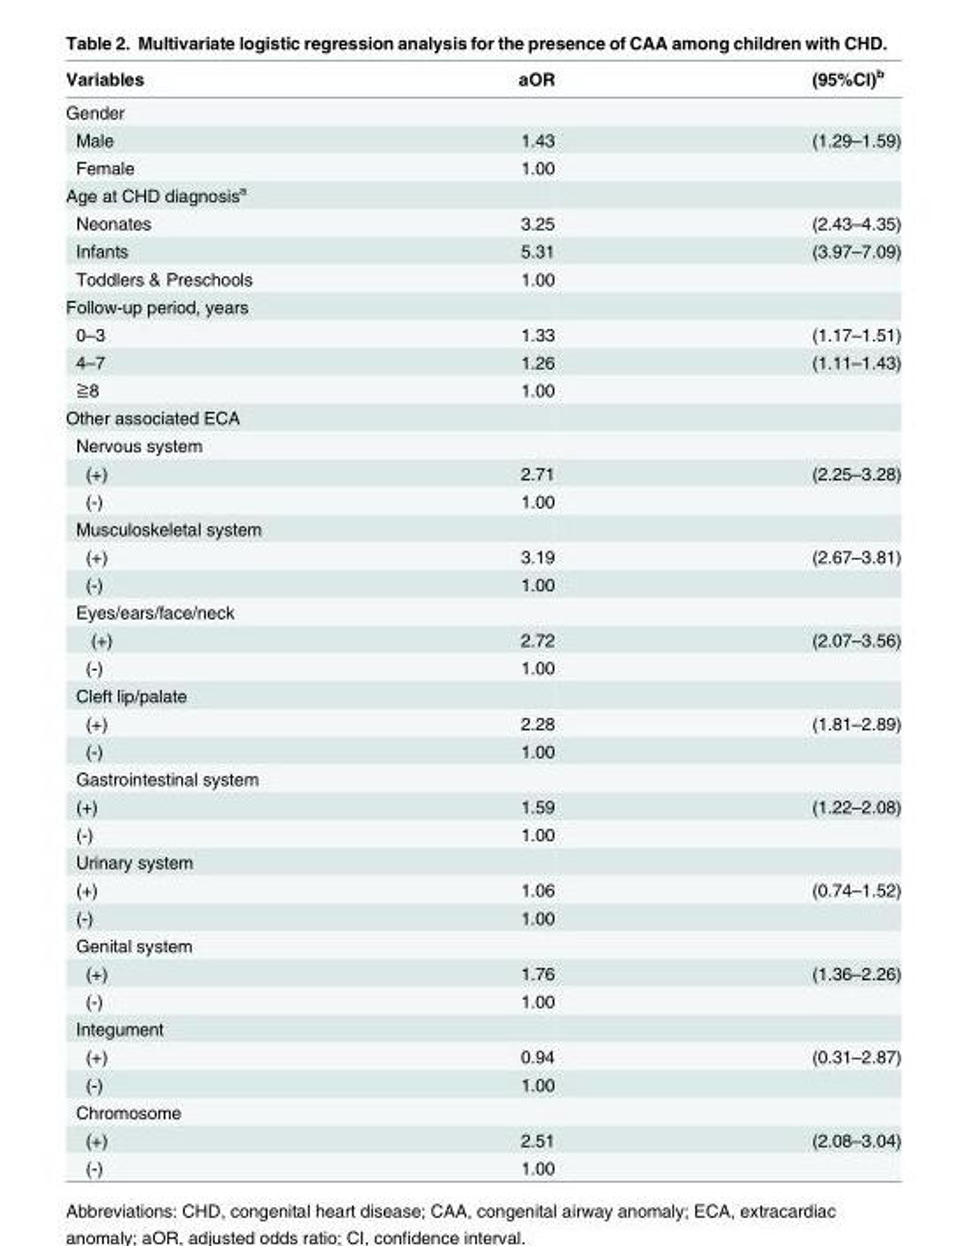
<table><thead><tr><td>Variables</td><td>aOR</td><td>(95%CI)<sup>b</sup></td></tr></thead><tbody><tr><td colspan="3">Gender</td></tr><tr><td>Male</td><td>1.43</td><td>(1.29–1.59)</td></tr><tr><td>Female</td><td>1.00</td><td></td></tr><tr><td colspan="3">Age at CHD diagnosis<sup>a</sup></td></tr><tr><td>Neonates</td><td>3.25</td><td>(2.43–4.35)</td></tr><tr><td>Infants</td><td>5.31</td><td>(3.97–7.09)</td></tr><tr><td>Toddlers &amp; Preschools</td><td>1.00</td><td></td></tr><tr><td colspan="3">Follow-up period, years</td></tr><tr><td>0–3</td><td>1.33</td><td>(1.17–1.51)</td></tr><tr><td>4–7</td><td>1.26</td><td>(1.11–1.43)</td></tr><tr><td>≧8</td><td>1.00</td><td></td></tr><tr><td colspan="3">Other associated ECA</td></tr><tr><td colspan="3">Nervous system</td></tr><tr><td>(+)</td><td>2.71</td><td>(2.25–3.28)</td></tr><tr><td>(-)</td><td>1.00</td><td></td></tr><tr><td colspan="3">Musculoskeletal system</td></tr><tr><td>(+)</td><td>3.19</td><td>(2.67–3.81)</td></tr><tr><td>(-)</td><td>1.00</td><td></td></tr><tr><td colspan="3">Eyes/ears/face/neck</td></tr><tr><td>(+)</td><td>2.72</td><td>(2.07–3.56)</td></tr><tr><td>(-)</td><td>1.00</td><td></td></tr><tr><td colspan="3">Cleft lip/palate</td></tr><tr><td>(+)</td><td>2.28</td><td>(1.81–2.89)</td></tr><tr><td>(-)</td><td>1.00</td><td></td></tr><tr><td colspan="3">Gastrointestinal system</td></tr><tr><td>(+)</td><td>1.59</td><td>(1.22–2.08)</td></tr><tr><td>(-)</td><td>1.00</td><td></td></tr><tr><td colspan="3">Urinary system</td></tr><tr><td>(+)</td><td>1.06</td><td>(0.74–1.52)</td></tr><tr><td>(-)</td><td>1.00</td><td></td></tr><tr><td colspan="3">Genital system</td></tr><tr><td>(+)</td><td>1.76</td><td>(1.36–2.26)</td></tr><tr><td>(-)</td><td>1.00</td><td></td></tr><tr><td colspan="3">Integument</td></tr><tr><td>(+)</td><td>0.94</td><td>(0.31–2.87)</td></tr><tr><td>(-)</td><td>1.00</td><td></td></tr><tr><td colspan="3">Chromosome</td></tr><tr><td>(+)</td><td>2.51</td><td>(2.08–3.04)</td></tr><tr><td>(-)</td><td>1.00</td><td></td></tr></tbody></table>